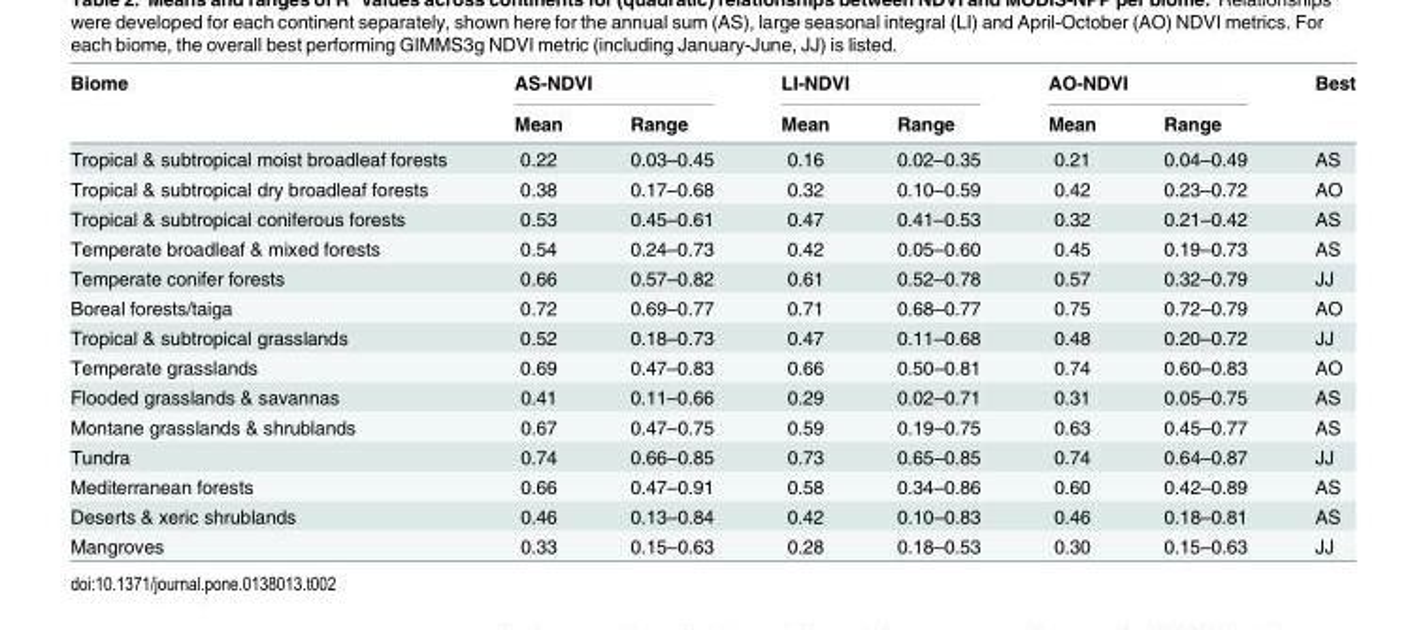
<table><thead><tr><td rowspan="2">Biome</td><td colspan="2">AS-NDVI</td><td colspan="2">LI-NDVI</td><td colspan="2">AO-NDVI</td><td rowspan="2">Best</td></tr><tr><td>Mean</td><td>Range</td><td>Mean</td><td>Range</td><td>Mean</td><td>Range</td></tr></thead><tbody><tr><td>Tropical &amp; subtropical moist broadleaf forests</td><td>0.22</td><td>0.03–0.45</td><td>0.16</td><td>0.02–0.35</td><td>0.21</td><td>0.04–0.49</td><td>AS</td></tr><tr><td>Tropical &amp; subtropical dry broadleaf forests</td><td>0.38</td><td>0.17–0.68</td><td>0.32</td><td>0.10–0.59</td><td>0.42</td><td>0.23–0.72</td><td>AO</td></tr><tr><td>Tropical &amp; subtropical coniferous forests</td><td>0.53</td><td>0.45–0.61</td><td>0.47</td><td>0.41–0.53</td><td>0.32</td><td>0.21–0.42</td><td>AS</td></tr><tr><td>Temperate broadleaf &amp; mixed forests</td><td>0.54</td><td>0.24–0.73</td><td>0.42</td><td>0.05–0.60</td><td>0.45</td><td>0.19–0.73</td><td>AS</td></tr><tr><td>Temperate conifer forests</td><td>0.66</td><td>0.57–0.82</td><td>0.61</td><td>0.52–0.78</td><td>0.57</td><td>0.32–0.79</td><td>JJ</td></tr><tr><td>Boreal forests/taiga</td><td>0.72</td><td>0.69–0.77</td><td>0.71</td><td>0.68–0.77</td><td>0.75</td><td>0.72–0.79</td><td>AO</td></tr><tr><td>Tropical &amp; subtropical grasslands</td><td>0.52</td><td>0.18–0.73</td><td>0.47</td><td>0.11–0.68</td><td>0.48</td><td>0.20–0.72</td><td>JJ</td></tr><tr><td>Temperate grasslands</td><td>0.69</td><td>0.47–0.83</td><td>0.66</td><td>0.50–0.81</td><td>0.74</td><td>0.60–0.83</td><td>AO</td></tr><tr><td>Flooded grasslands &amp; savannas</td><td>0.41</td><td>0.11–0.66</td><td>0.29</td><td>0.02–0.71</td><td>0.31</td><td>0.05–0.75</td><td>AS</td></tr><tr><td>Montane grasslands &amp; shrublands</td><td>0.67</td><td>0.47–0.75</td><td>0.59</td><td>0.19–0.75</td><td>0.63</td><td>0.45–0.77</td><td>AS</td></tr><tr><td>Tundra</td><td>0.74</td><td>0.66–0.85</td><td>0.73</td><td>0.65–0.85</td><td>0.74</td><td>0.64–0.87</td><td>JJ</td></tr><tr><td>Mediterranean forests</td><td>0.66</td><td>0.47–0.91</td><td>0.58</td><td>0.34–0.86</td><td>0.60</td><td>0.42–0.89</td><td>AS</td></tr><tr><td>Deserts &amp; xeric shrublands</td><td>0.46</td><td>0.13–0.84</td><td>0.42</td><td>0.10–0.83</td><td>0.46</td><td>0.18–0.81</td><td>AS</td></tr><tr><td>Mangroves</td><td>0.33</td><td>0.15–0.63</td><td>0.28</td><td>0.18–0.53</td><td>0.30</td><td>0.15–0.63</td><td>JJ</td></tr></tbody></table>